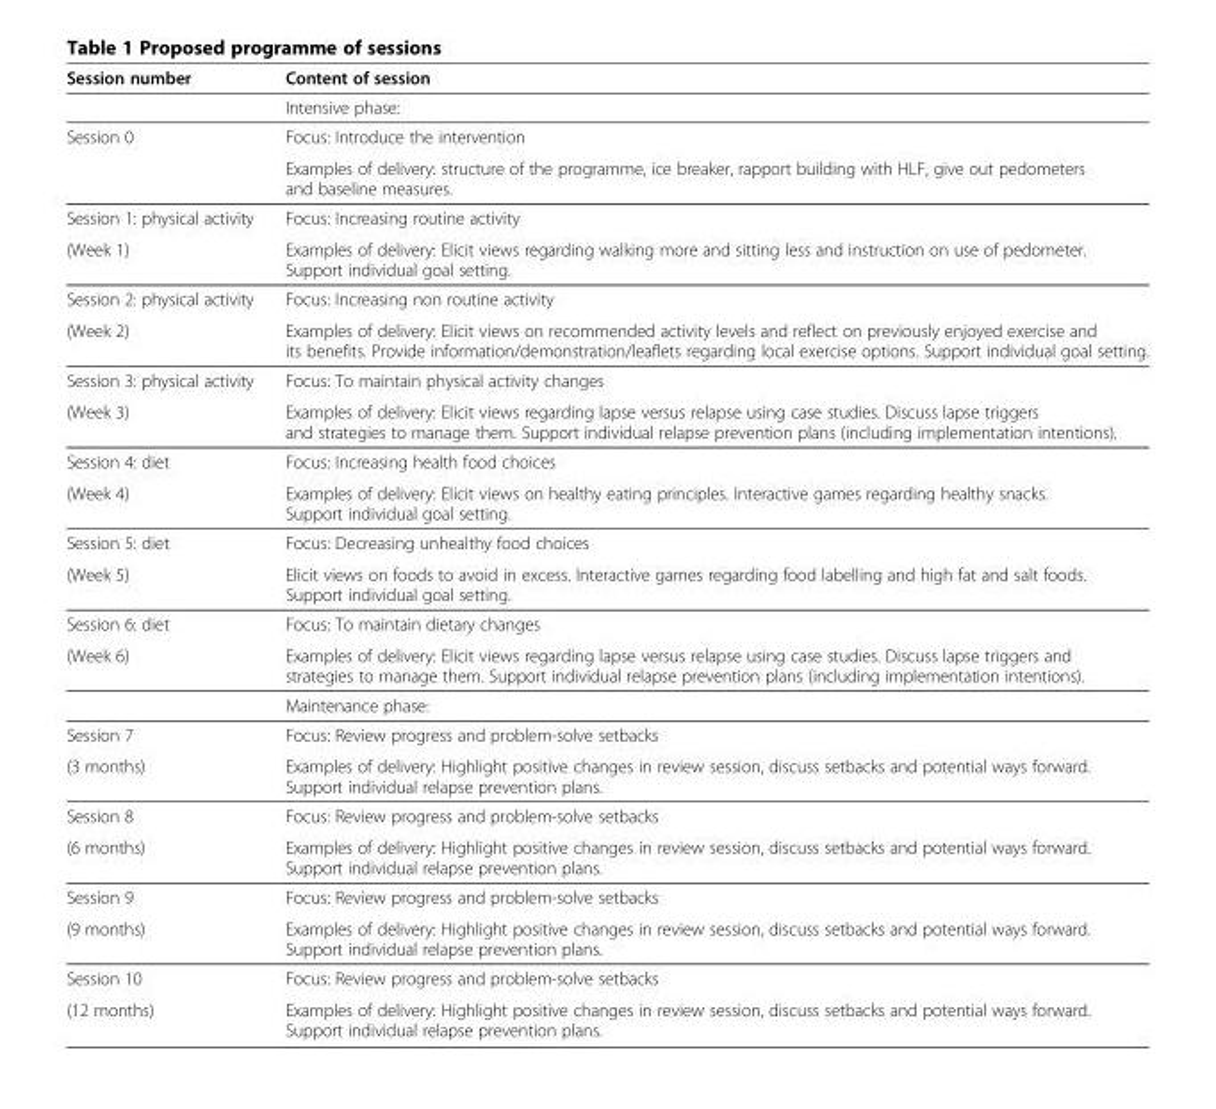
<table><thead><tr><td>Session number</td><td>Content of session</td></tr></thead><tbody><tr><td></td><td>Intensive phase:</td></tr><tr><td rowspan="2">Session 0</td><td>Focus: Introduce the intervention</td></tr><tr><td>Examples of delivery: structure of the programme, ice breaker, rapport building with HLF, give out pedometers and baseline measures.</td></tr><tr><td>Session 1: physical activity</td><td>Focus: Increasing routine activity</td></tr><tr><td>(Week 1)</td><td>Examples of delivery: Elicit views regarding walking more and sitting less and instruction on use of pedometer. Support individual goal setting.</td></tr><tr><td>Session 2: physical activity</td><td>Focus: Increasing non routine activity</td></tr><tr><td>(Week 2)</td><td>Examples of delivery: Elicit views on recommended activity levels and reflect on previously enjoyed exercise and its benefits. Provide information/demonstration/leaflets regarding local exercise options. Support individual goal setting.</td></tr><tr><td>Session 3: physical activity</td><td>Focus: To maintain physical activity changes</td></tr><tr><td>(Week 3)</td><td>Examples of delivery: Elicit views regarding lapse versus relapse using case studies. Discuss lapse triggers and strategies to manage them. Support individual relapse prevention plans (including implementation intentions).</td></tr><tr><td>Session 4: diet</td><td>Focus: Increasing health food choices</td></tr><tr><td>(Week 4)</td><td>Examples of delivery: Elicit views on healthy eating principles. Interactive games regarding healthy snacks. Support individual goal setting.</td></tr><tr><td>Session 5: diet</td><td>Focus: Decreasing unhealthy food choices</td></tr><tr><td>(Week 5)</td><td>Elicit views on foods to avoid in excess. Interactive games regarding food labelling and high fat and salt foods. Support individual goal setting.</td></tr><tr><td>Session 6: diet</td><td>Focus: To maintain dietary changes</td></tr><tr><td rowspan="2">(Week 6)</td><td>Examples of delivery: Elicit views regarding lapse versus relapse using case studies. Discuss lapse triggers and strategies to manage them. Support individual relapse prevention plans (including implementation intentions).</td></tr><tr><td>Maintenance phase:</td></tr><tr><td>Session 7</td><td>Focus: Review progress and problem-solve setbacks</td></tr><tr><td>(3 months)</td><td>Examples of delivery: Highlight positive changes in review session, discuss setbacks and potential ways forward. Support individual relapse prevention plans.</td></tr><tr><td>Session 8</td><td>Focus: Review progress and problem-solve setbacks</td></tr><tr><td>(6 months)</td><td>Examples of delivery: Highlight positive changes in review session, discuss setbacks and potential ways forward. Support individual relapse prevention plans.</td></tr><tr><td>Session 9</td><td>Focus: Review progress and problem-solve setbacks</td></tr><tr><td>(9 months)</td><td>Examples of delivery: Highlight positive changes in review session, discuss setbacks and potential ways forward. Support individual relapse prevention plans.</td></tr><tr><td>Session 10</td><td>Focus: Review progress and problem-solve setbacks</td></tr><tr><td>(12 months)</td><td>Examples of delivery: Highlight positive changes in review session, discuss setbacks and potential ways forward. Support individual relapse prevention plans.</td></tr></tbody></table>